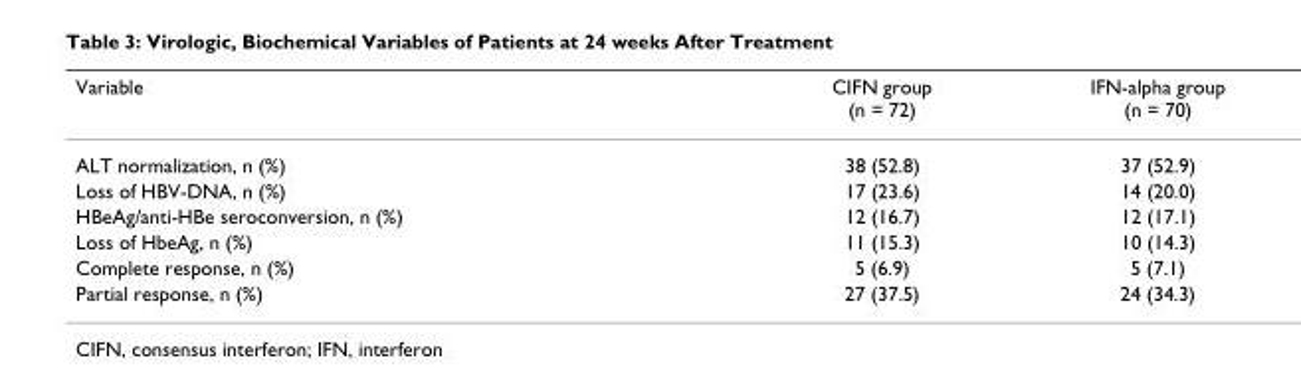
<table><thead><tr><td>Variable</td><td>CIFN group (n = 72)</td><td>IFN-alpha group (n = 70)</td></tr></thead><tbody><tr><td>ALT normalization, n (%)</td><td>38 (52.8)</td><td>37 (52.9)</td></tr><tr><td>Loss of HBV-DNA, n (%)</td><td>17 (23.6)</td><td>14 (20.0)</td></tr><tr><td>HBeAg/anti-HBe seroconversion, n (%)</td><td>12 (16.7)</td><td>12 (17.1)</td></tr><tr><td>Loss of HbeAg, n (%)</td><td>11 (15.3)</td><td>10 (14.3)</td></tr><tr><td>Complete response, n (%)</td><td>5 (6.9)</td><td>5 (7.1)</td></tr><tr><td>Partial response, n (%)</td><td>27 (37.5)</td><td>24 (34.3)</td></tr></tbody></table>